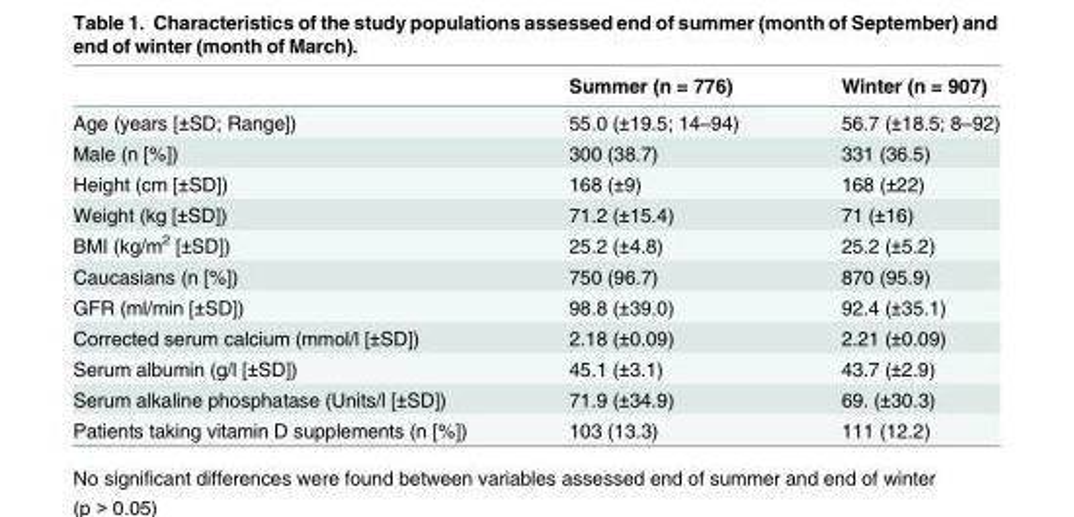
<table><thead><tr><td></td><td>Summer (n = 776)</td><td>Winter (n = 907)</td></tr></thead><tbody><tr><td>Age (years [±SD; Range])</td><td>55.0 (±19.5; 14–94)</td><td>56.7 (±18.5; 8–92)</td></tr><tr><td>Male (n [%])</td><td>300 (38.7)</td><td>331 (36.5)</td></tr><tr><td>Height (cm [±SD])</td><td>168 (±9)</td><td>168 (±22)</td></tr><tr><td>Weight (kg [±SD])</td><td>71.2 (±15.4)</td><td>71 (±16)</td></tr><tr><td>BMI (kg/m<sup>2</sup> [±SD])</td><td>25.2 (±4.8)</td><td>25.2 (±5.2)</td></tr><tr><td>Caucasians (n [%])</td><td>750 (96.7)</td><td>870 (95.9)</td></tr><tr><td>GFR (ml/min [±SD])</td><td>98.8 (±39.0)</td><td>92.4 (±35.1)</td></tr><tr><td>Corrected serum calcium (mmol/l [±SD])</td><td>2.18 (±0.09)</td><td>2.21 (±0.09)</td></tr><tr><td>Serum albumin (g/l [±SD])</td><td>45.1 (±3.1)</td><td>43.7 (±2.9)</td></tr><tr><td>Serum alkaline phosphatase (Units/l [±SD])</td><td>71.9 (±34.9)</td><td>69. (±30.3)</td></tr><tr><td>Patients taking vitamin D supplements (n [%])</td><td>103 (13.3)</td><td>111 (12.2)</td></tr></tbody></table>